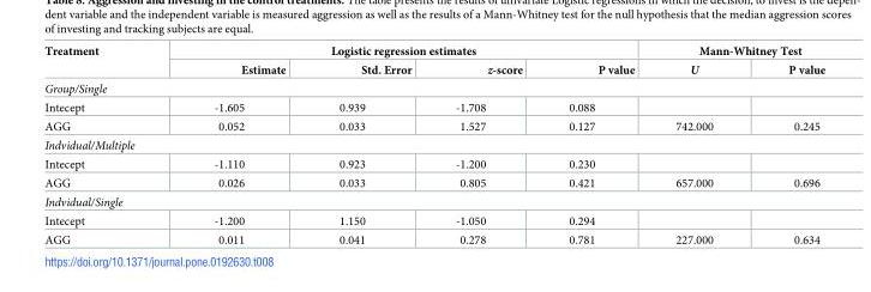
<table><thead><tr><td rowspan="2">Treatment</td><td colspan="4">Logistic regression estimates</td><td colspan="2">Mann-Whitney Test</td></tr><tr><td>Estimate</td><td>Std. Error</td><td>z-score</td><td>P value</td><td>U</td><td>P value</td></tr></thead><tbody><tr><td colspan="7">Group/Single</td></tr><tr><td>Intecept</td><td>-1.605</td><td>0.939</td><td>-1.708</td><td>0.088</td><td></td><td></td></tr><tr><td>AGG</td><td>0.052</td><td>0.033</td><td>1.527</td><td>0.127</td><td>742.000</td><td>0.245</td></tr><tr><td colspan="7">Indvidual/Multiple</td></tr><tr><td>Intecept</td><td>-1.110</td><td>0.923</td><td>-1.200</td><td>0.230</td><td></td><td></td></tr><tr><td>AGG</td><td>0.026</td><td>0.033</td><td>0.805</td><td>0.421</td><td>657.000</td><td>0.696</td></tr><tr><td colspan="7">Indvidual/Single</td></tr><tr><td>Intecept</td><td>-1.200</td><td>1.150</td><td>-1.050</td><td>0.294</td><td></td><td></td></tr><tr><td>AGG</td><td>0.011</td><td>0.041</td><td>0.278</td><td>0.781</td><td>227.000</td><td>0.634</td></tr></tbody></table>